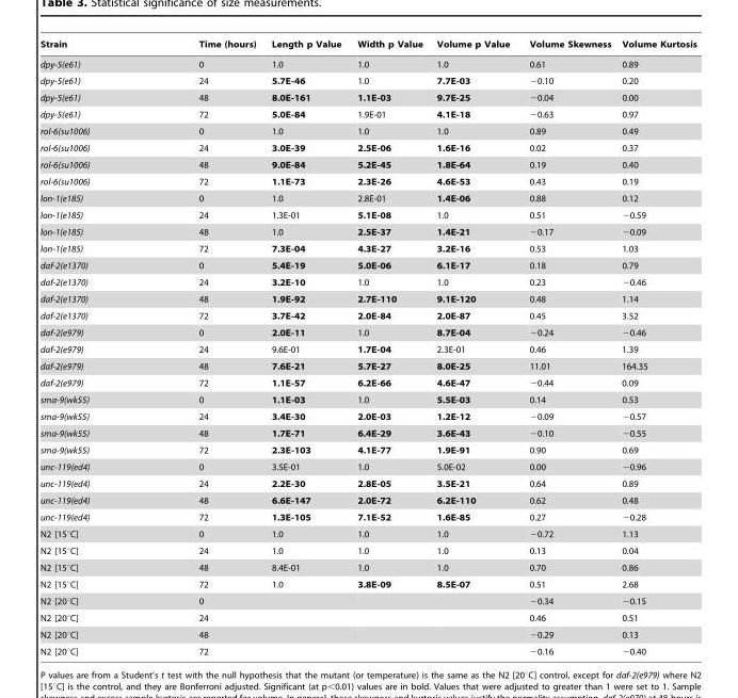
<table><thead><tr><td>Strain</td><td>Time (hours)</td><td>Length p Value</td><td>Width p Value</td><td>Volume p Value</td><td>Volume Skewness</td><td>Volume Kurtosis</td></tr></thead><tbody><tr><td>dpy-5(e61)</td><td>0</td><td>1.0</td><td>1.0</td><td>1.0</td><td>0.61</td><td>0.89</td></tr><tr><td>dpy-5(e61)</td><td>24</td><td>5.7E-46</td><td>1.0</td><td>7.7E-03</td><td>−0.10</td><td>0.20</td></tr><tr><td>dpy-5(e61)</td><td>48</td><td>8.0E-161</td><td>1.1E-03</td><td>9.7E-25</td><td>−0.04</td><td>0.00</td></tr><tr><td>dpy-5(e61)</td><td>72</td><td>5.0E-84</td><td>1.9E-01</td><td>4.1E-18</td><td>−0.63</td><td>0.97</td></tr><tr><td>rol-6(su1006)</td><td>0</td><td>1.0</td><td>1.0</td><td>1.0</td><td>0.89</td><td>0.49</td></tr><tr><td>rol-6(su1006)</td><td>24</td><td>3.0E-39</td><td>2.5E-06</td><td>1.6E-16</td><td>0.02</td><td>0.37</td></tr><tr><td>rol-6(su1006)</td><td>48</td><td>9.0E-84</td><td>5.2E-45</td><td>1.8E-64</td><td>0.19</td><td>0.40</td></tr><tr><td>rol-6(su1006)</td><td>72</td><td>1.1E-73</td><td>2.3E-26</td><td>4.6E-53</td><td>0.43</td><td>0.19</td></tr><tr><td>lon-1(e185)</td><td>0</td><td>1.0</td><td>2.8E-01</td><td>1.4E-06</td><td>0.88</td><td>0.12</td></tr><tr><td>lon-1(e185)</td><td>24</td><td>1.3E-01</td><td>5.1E-08</td><td>1.0</td><td>0.51</td><td>−0.59</td></tr><tr><td>lon-1(e185)</td><td>48</td><td>1.0</td><td>2.5E-37</td><td>1.4E-21</td><td>−0.17</td><td>−0.09</td></tr><tr><td>lon-1(e185)</td><td>72</td><td>7.3E-04</td><td>4.3E-27</td><td>3.2E-16</td><td>0.53</td><td>1.03</td></tr><tr><td>daf-2(e1370)</td><td>0</td><td>5.4E-19</td><td>5.0E-06</td><td>6.1E-17</td><td>0.18</td><td>0.79</td></tr><tr><td>daf-2(e1370)</td><td>24</td><td>3.2E-10</td><td>1.0</td><td>1.0</td><td>0.23</td><td>−0.46</td></tr><tr><td>daf-2(e1370)</td><td>48</td><td>1.9E-92</td><td>2.7E-110</td><td>9.1E-120</td><td>0.48</td><td>1.14</td></tr><tr><td>daf-2(e1370)</td><td>72</td><td>3.7E-42</td><td>2.0E-84</td><td>2.0E-87</td><td>0.45</td><td>3.52</td></tr><tr><td>daf-2(e979)</td><td>0</td><td>2.0E-11</td><td>1.0</td><td>8.7E-04</td><td>−0.24</td><td>−0.46</td></tr><tr><td>daf-2(e979)</td><td>24</td><td>9.6E-01</td><td>1.7E-04</td><td>2.3E-01</td><td>0.46</td><td>1.39</td></tr><tr><td>daf-2(e979)</td><td>48</td><td>7.6E-21</td><td>5.7E-27</td><td>8.0E-25</td><td>11.01</td><td>164.35</td></tr><tr><td>daf-2(e979)</td><td>72</td><td>1.1E-57</td><td>6.2E-66</td><td>4.6E-47</td><td>−0.44</td><td>0.09</td></tr><tr><td>sma-9(wk55)</td><td>0</td><td>1.1E-03</td><td>1.0</td><td>5.5E-03</td><td>0.14</td><td>0.53</td></tr><tr><td>sma-9(wk55)</td><td>24</td><td>3.4E-30</td><td>2.0E-03</td><td>1.2E-12</td><td>−0.09</td><td>−0.57</td></tr><tr><td>sma-9(wk55)</td><td>48</td><td>1.7E-71</td><td>6.4E-29</td><td>3.6E-43</td><td>−0.10</td><td>−0.55</td></tr><tr><td>sma-9(wk55)</td><td>72</td><td>2.3E-103</td><td>4.1E-77</td><td>1.9E-91</td><td>0.90</td><td>0.69</td></tr><tr><td>unc-119(ed4)</td><td>0</td><td>3.5E-01</td><td>1.0</td><td>5.0E-02</td><td>0.00</td><td>−0.96</td></tr><tr><td>unc-119(ed4)</td><td>24</td><td>2.2E-30</td><td>2.8E-05</td><td>3.5E-21</td><td>0.64</td><td>0.89</td></tr><tr><td>unc-119(ed4)</td><td>48</td><td>6.6E-147</td><td>2.0E-72</td><td>6.2E-110</td><td>0.62</td><td>0.48</td></tr><tr><td>unc-119(ed4)</td><td>72</td><td>1.3E-105</td><td>7.1E-52</td><td>1.6E-85</td><td>0.27</td><td>−0.28</td></tr><tr><td>N2 [15°C]</td><td>0</td><td>1.0</td><td>1.0</td><td>1.0</td><td>−0.72</td><td>1.13</td></tr><tr><td>N2 [15°C]</td><td>24</td><td>1.0</td><td>1.0</td><td>1.0</td><td>0.13</td><td>0.04</td></tr><tr><td>N2 [15°C]</td><td>48</td><td>8.4E-01</td><td>1.0</td><td>1.0</td><td>0.70</td><td>0.86</td></tr><tr><td>N2 [15°C]</td><td>72</td><td>1.0</td><td>3.8E-09</td><td>8.5E-07</td><td>0.51</td><td>2.68</td></tr><tr><td>N2 [20°C]</td><td>0</td><td></td><td></td><td></td><td>−0.34</td><td>−0.15</td></tr><tr><td>N2 [20°C]</td><td>24</td><td></td><td></td><td></td><td>0.46</td><td>0.51</td></tr><tr><td>N2 [20°C]</td><td>48</td><td></td><td></td><td></td><td>−0.29</td><td>0.13</td></tr><tr><td>N2 [20°C]</td><td>72</td><td></td><td></td><td></td><td>−0.16</td><td>−0.40</td></tr></tbody></table>